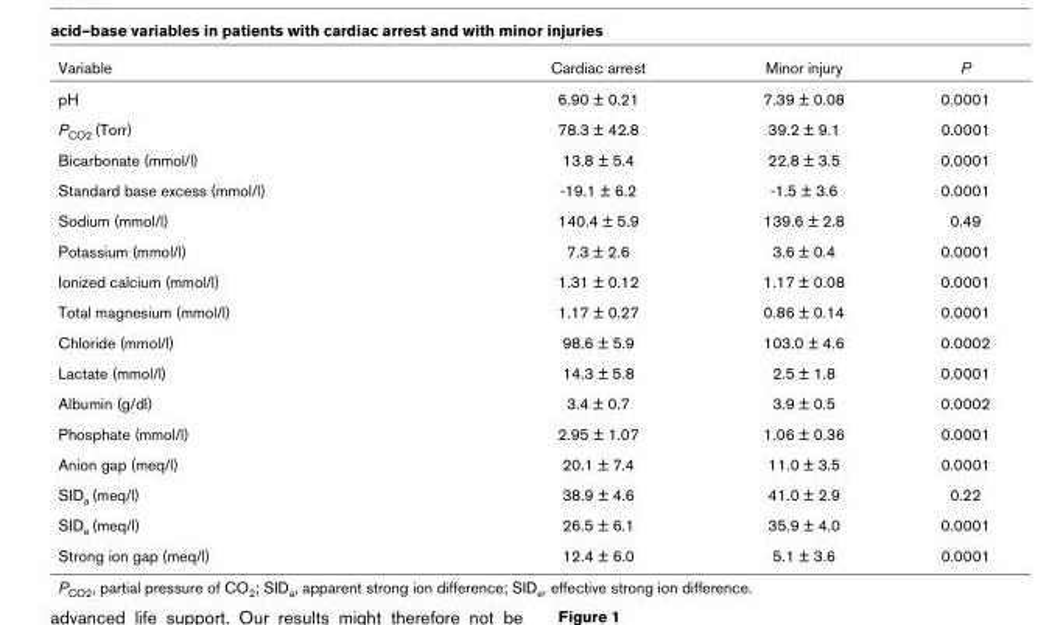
<table><thead><tr><td>Variable</td><td>Cardiac arrest</td><td>Minor injury</td><td>P</td></tr></thead><tbody><tr><td>pH</td><td>6.90 ± 0.21</td><td>7.39 ± 0.08</td><td>0.0001</td></tr><tr><td>PCO2 (Torr)</td><td>78.3 ± 42.8</td><td>39.2 ± 9.1</td><td>0.0001</td></tr><tr><td>Bicarbonate (mmol/l)</td><td>13.8 ± 5.4</td><td>22.8 ± 3.5</td><td>0.0001</td></tr><tr><td>Standard base excess (mmol/l)</td><td>-19.1 ± 6.2</td><td>-1.5 ± 3.6</td><td>0.0001</td></tr><tr><td>Sodium (mmol/l)</td><td>140.4 ± 5.9</td><td>139.6 ± 2.8</td><td>0.49</td></tr><tr><td>Potassium (mmol/l)</td><td>7.3 ± 2.6</td><td>3.6 ± 0.4</td><td>0.0001</td></tr><tr><td>Ionized calcium (mmol/l)</td><td>1.31 ± 0.12</td><td>1.17 ± 0.08</td><td>0.0001</td></tr><tr><td>Total magnesium (mmol/l)</td><td>1.17 ± 0.27</td><td>0.86 ± 0.14</td><td>0.0001</td></tr><tr><td>Chloride (mmol/l)</td><td>98.6 ± 5.9</td><td>103.0 ± 4.6</td><td>0.0002</td></tr><tr><td>Lactate (mmol/l)</td><td>14.3 ± 5.8</td><td>2.5 ± 1.8</td><td>0.0001</td></tr><tr><td>Albumin (g/dl)</td><td>3.4 ± 0.7</td><td>3.9 ± 0.5</td><td>0.0002</td></tr><tr><td>Phosphate (mmol/l)</td><td>2.95 ± 1.07</td><td>1.06 ± 0.36</td><td>0.0001</td></tr><tr><td>Anion gap (meq/l)</td><td>20.1 ± 7.4</td><td>11.0 ± 3.5</td><td>0.0001</td></tr><tr><td>SIDa (meq/l)</td><td>38.9 ± 4.6</td><td>41.0 ± 2.9</td><td>0.22</td></tr><tr><td>SIDe (meq/l)</td><td>26.5 ± 6.1</td><td>35.9 ± 4.0</td><td>0.0001</td></tr><tr><td>Strong ion gap (meq/l)</td><td>12.4 ± 6.0</td><td>5.1 ± 3.6</td><td>0.0001</td></tr></tbody></table>